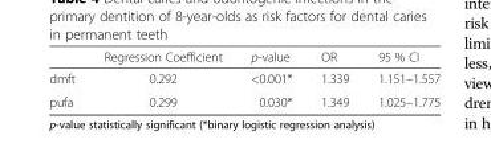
<table><thead><tr><td></td><td>Regression Coefficient</td><td>p-value</td><td>OR</td><td>95 % CI</td></tr></thead><tbody><tr><td>dmft</td><td>0.292</td><td>&lt;0.001*</td><td>1.339</td><td>1.151–1.557</td></tr><tr><td>pufa</td><td>0.299</td><td>0.030*</td><td>1.349</td><td>1.025–1.775</td></tr></tbody></table>